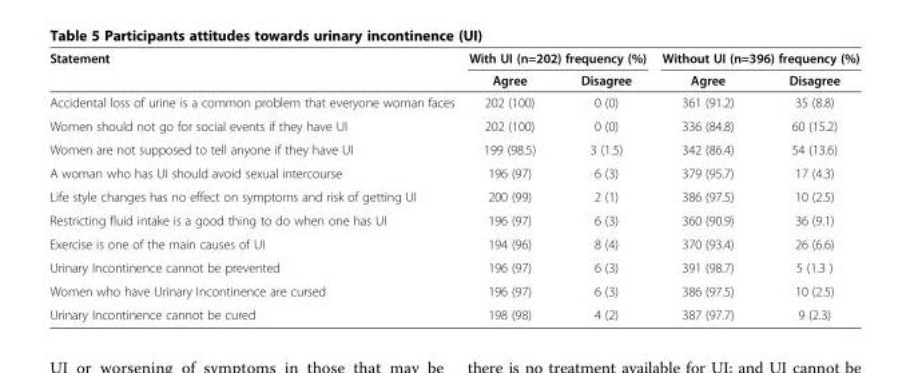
<table><thead><tr><td rowspan="2">Statement</td><td colspan="2">With UI (n=202) frequency (%)</td><td colspan="2">Without UI (n=396) frequency (%)</td></tr><tr><td>Agree</td><td>Disagree</td><td>Agree</td><td>Disagree</td></tr></thead><tbody><tr><td>Accidental loss of urine is a common problem that everyone woman faces</td><td>202 (100)</td><td>0 (0)</td><td>361 (91.2)</td><td>35 (8.8)</td></tr><tr><td>Women should not go for social events if they have UI</td><td>202 (100)</td><td>0 (0)</td><td>336 (84.8)</td><td>60 (15.2)</td></tr><tr><td>Women are not supposed to tell anyone if they have UI</td><td>199 (98.5)</td><td>3 (1.5)</td><td>342 (86.4)</td><td>54 (13.6)</td></tr><tr><td>A woman who has UI should avoid sexual intercourse</td><td>196 (97)</td><td>6 (3)</td><td>379 (95.7)</td><td>17 (4.3)</td></tr><tr><td>Life style changes has no effect on symptoms and risk of getting UI</td><td>200 (99)</td><td>2 (1)</td><td>386 (97.5)</td><td>10 (2.5)</td></tr><tr><td>Restricting fluid intake is a good thing to do when one has UI</td><td>196 (97)</td><td>6 (3)</td><td>360 (90.9)</td><td>36 (9.1)</td></tr><tr><td>Exercise is one of the main causes of UI</td><td>194 (96)</td><td>8 (4)</td><td>370 (93.4)</td><td>26 (6.6)</td></tr><tr><td>Urinary Incontinence cannot be prevented</td><td>196 (97)</td><td>6 (3)</td><td>391 (98.7)</td><td>5 (1.3 )</td></tr><tr><td>Women who have Urinary Incontinence are cursed</td><td>196 (97)</td><td>6 (3)</td><td>386 (97.5)</td><td>10 (2.5)</td></tr><tr><td>Urinary Incontinence cannot be cured</td><td>198 (98)</td><td>4 (2)</td><td>387 (97.7)</td><td>9 (2.3)</td></tr></tbody></table>